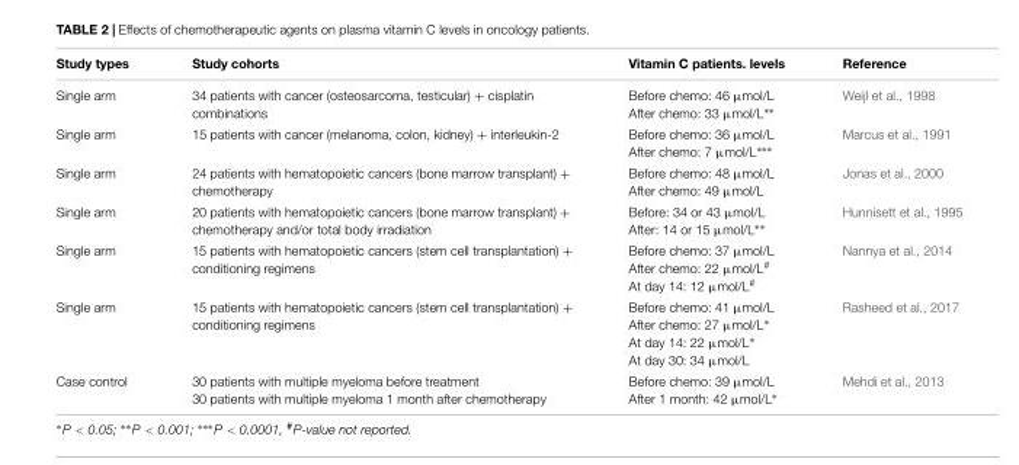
<table><thead><tr><td>Study types</td><td>Study cohorts</td><td>Vitamin C patients. levels</td><td>Reference</td></tr></thead><tbody><tr><td>Single arm</td><td>34 patients with cancer (osteosarcoma, testicular) + cisplatin combinations</td><td>Before chemo: 46 µmol/L After chemo: 33 µmol/L∗∗</td><td>Weijl et al., 1998</td></tr><tr><td>Single arm</td><td>15 patients with cancer (melanoma, colon, kidney) + interleukin-2</td><td>Before chemo: 36 µmol/L After chemo: 7 µmol/L∗∗∗</td><td>Marcus et al., 1991</td></tr><tr><td>Single arm</td><td>24 patients with hematopoietic cancers (bone marrow transplant) + chemotherapy</td><td>Before chemo: 48 µmol/L After chemo: 49 µmol/L</td><td>Jonas et al., 2000</td></tr><tr><td>Single arm</td><td>20 patients with hematopoietic cancers (bone marrow transplant) + chemotherapy and/or total body irradiation</td><td>Before: 34 or 43 µmol/L After: 14 or 15 µmol/L∗∗</td><td>Hunnisett et al., 1995</td></tr><tr><td>Single arm</td><td>15 patients with hematopoietic cancers (stem cell transplantation) + conditioning regimens</td><td>Before chemo: 37 µmol/L After chemo: 22 µmol/L<sup>#</sup> At day 14: 12 µmol/L<sup>#</sup></td><td>Nannya et al., 2014</td></tr><tr><td>Single arm</td><td>15 patients with hematopoietic cancers (stem cell transplantation) + conditioning regimens</td><td>Before chemo: 41 µmol/L After chemo: 27 µmol/L∗ At day 14: 22 µmol/L∗ At day 30: 34 µmol/L</td><td>Rasheed et al., 2017</td></tr><tr><td>Case control</td><td>30 patients with multiple myeloma before treatment 30 patients with multiple myeloma 1 month after chemotherapy</td><td>Before chemo: 39 µmol/L After 1 month: 42 µmol/L∗</td><td>Mehdi et al., 2013</td></tr></tbody></table>